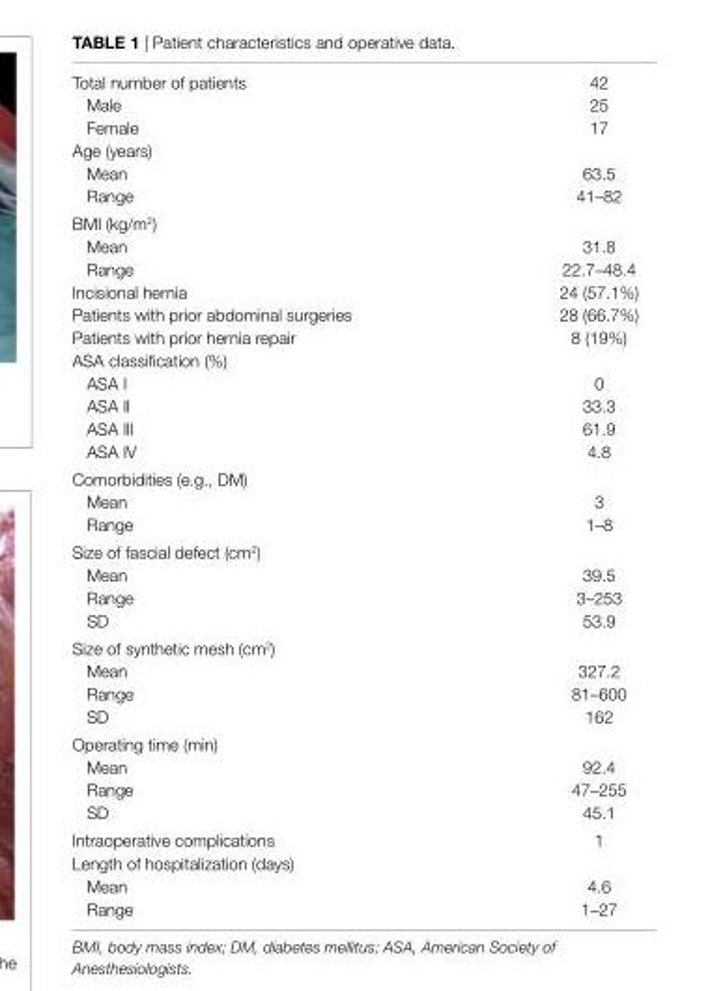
<table><tbody><tr><td>Total number of patients</td><td>42</td></tr><tr><td>Male</td><td>25</td></tr><tr><td>Female</td><td>17</td></tr><tr><td colspan="2">Age (years)</td></tr><tr><td>Mean</td><td>63.5</td></tr><tr><td>Range</td><td>41–82</td></tr><tr><td colspan="2">BMI (kg/m<sup>2</sup>)</td></tr><tr><td>Mean</td><td>31.8</td></tr><tr><td>Range</td><td>22.7–48.4</td></tr><tr><td>Incisional hernia</td><td>24 (57.1%)</td></tr><tr><td>Patients with prior abdominal surgeries</td><td>28 (66.7%)</td></tr><tr><td>Patients with prior hernia repair</td><td>8 (19%)</td></tr><tr><td colspan="2">ASA classification (%)</td></tr><tr><td>ASA I</td><td>0</td></tr><tr><td>ASA II</td><td>33.3</td></tr><tr><td>ASA III</td><td>61.9</td></tr><tr><td>ASA IV</td><td>4.8</td></tr><tr><td colspan="2">Comorbidities (e.g., DM)</td></tr><tr><td>Mean</td><td>3</td></tr><tr><td>Range</td><td>1–8</td></tr><tr><td colspan="2">Size of fascial defect (cm<sup>2</sup>)</td></tr><tr><td>Mean</td><td>39.5</td></tr><tr><td>Range</td><td>3–253</td></tr><tr><td>SD</td><td>53.9</td></tr><tr><td colspan="2">Size of synthetic mesh (cm<sup>2</sup>)</td></tr><tr><td>Mean</td><td>327.2</td></tr><tr><td>Range</td><td>81–600</td></tr><tr><td>SD</td><td>162</td></tr><tr><td colspan="2">Operating time (min)</td></tr><tr><td>Mean</td><td>92.4</td></tr><tr><td>Range</td><td>47–255</td></tr><tr><td>SD</td><td>45.1</td></tr><tr><td>Intraoperative complications</td><td>1</td></tr><tr><td colspan="2">Length of hospitalization (days)</td></tr><tr><td>Mean</td><td>4.6</td></tr><tr><td>Range</td><td>1–27</td></tr></tbody></table>